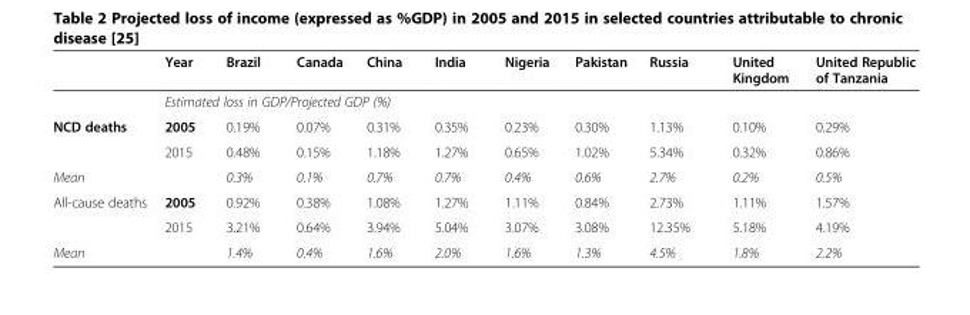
<table><thead><tr><td></td><td>Year</td><td>Brazil</td><td>Canada</td><td>China</td><td>India</td><td>Nigeria</td><td>Pakistan</td><td>Russia</td><td>United Kingdom</td><td>United Republic of Tanzania</td></tr></thead><tbody><tr><td></td><td colspan="10">Estimated loss in GDP/Projected GDP (%)</td></tr><tr><td rowspan="2">NCD deaths</td><td>2005</td><td>0.19%</td><td>0.07%</td><td>0.31%</td><td>0.35%</td><td>0.23%</td><td>0.30%</td><td>1.13%</td><td>0.10%</td><td>0.29%</td></tr><tr><td>2015</td><td>0.48%</td><td>0.15%</td><td>1.18%</td><td>1.27%</td><td>0.65%</td><td>1.02%</td><td>5.34%</td><td>0.32%</td><td>0.86%</td></tr><tr><td>Mean</td><td></td><td>0.3%</td><td>0.1%</td><td>0.7%</td><td>0.7%</td><td>0.4%</td><td>0.6%</td><td>2.7%</td><td>0.2%</td><td>0.5%</td></tr><tr><td rowspan="2">All-cause deaths</td><td>2005</td><td>0.92%</td><td>0.38%</td><td>1.08%</td><td>1.27%</td><td>1.11%</td><td>0.84%</td><td>2.73%</td><td>1.11%</td><td>1.57%</td></tr><tr><td>2015</td><td>3.21%</td><td>0.64%</td><td>3.94%</td><td>5.04%</td><td>3.07%</td><td>3.08%</td><td>12.35%</td><td>5.18%</td><td>4.19%</td></tr><tr><td>Mean</td><td></td><td>1.4%</td><td>0.4%</td><td>1.6%</td><td>2.0%</td><td>1.6%</td><td>1.3%</td><td>4.5%</td><td>1.8%</td><td>2.2%</td></tr></tbody></table>